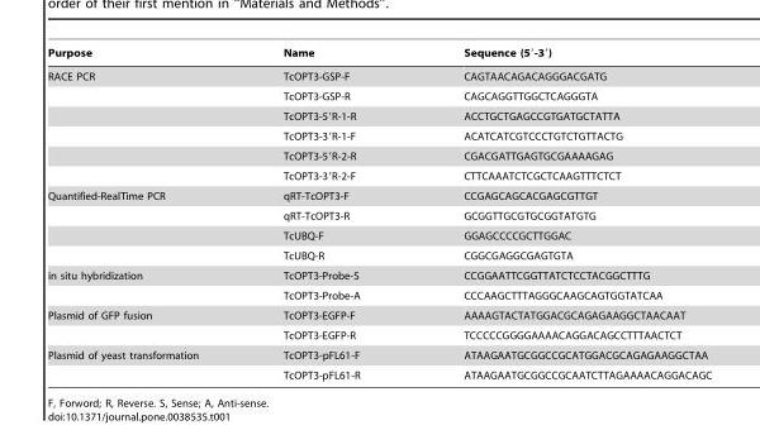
<table><thead><tr><td>Purpose</td><td>Name</td><td>Sequence (5′-3′)</td></tr></thead><tbody><tr><td rowspan="6">RACE PCR</td><td>TcOPT3-GSP-F</td><td>CAGTAACAGACAGGGACGATG</td></tr><tr><td>TcOPT3-GSP-R</td><td>CAGCAGGTTGGCTCAGGGTA</td></tr><tr><td>TcOPT3-5′R-1-R</td><td>ACCTGCTGAGCCGTGATGCTATTA</td></tr><tr><td>TcOPT3-3′R-1-F</td><td>ACATCATCGTCCCTGTCTGTTACTG</td></tr><tr><td>TcOPT3-5′R-2-R</td><td>CGACGATTGAGTGCGAAAAGAG</td></tr><tr><td>TcOPT3-3′R-2-F</td><td>CTTCAAATCTCGCTCAAGTTTCTCT</td></tr><tr><td rowspan="4">Quantified-RealTime PCR</td><td>qRT-TcOPT3-F</td><td>CCGAGCAGCACGAGCGTTGT</td></tr><tr><td>qRT-TcOPT3-R</td><td>GCGGTTGCGTGCGGTATGTG</td></tr><tr><td>TcUBQ-F</td><td>GGAGCCCCGCTTGGAC</td></tr><tr><td>TcUBQ-R</td><td>CGGCGAGGCGAGTGTA</td></tr><tr><td rowspan="2">in situ hybridization</td><td>TcOPT3-Probe-S</td><td>CCGGAATTCGGTTATCTCCTACGGCTTTG</td></tr><tr><td>TcOPT3-Probe-A</td><td>CCCAAGCTTTAGGGCAAGCAGTGGTATCAA</td></tr><tr><td rowspan="2">Plasmid of GFP fusion</td><td>TcOPT3-EGFP-F</td><td>AAAAGTACTATGGACGCAGAGAAGGCTAACAAT</td></tr><tr><td>TcOPT3-EGFP-R</td><td>TCCCCCGGGGAAAACAGGACAGCCTTTAACTCT</td></tr><tr><td rowspan="2">Plasmid of yeast transformation</td><td>TcOPT3-pFL61-F</td><td>ATAAGAATGCGGCCGCATGGACGCAGAGAAGGCTAA</td></tr><tr><td>TcOPT3-pFL61-R</td><td>ATAAGAATGCGGCCGCAATCTTAGAAAACAGGACAGC</td></tr></tbody></table>